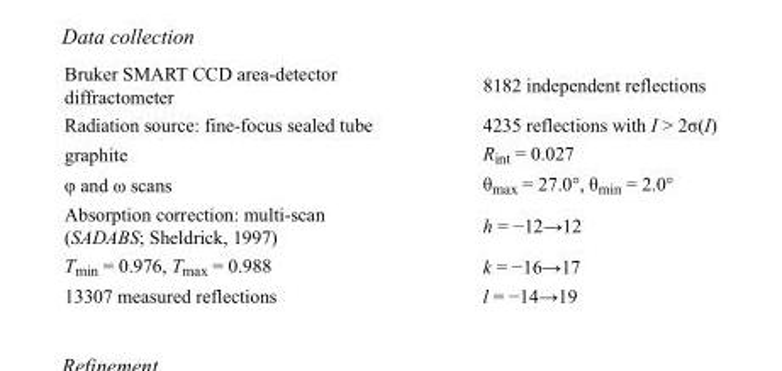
<table><tbody><tr><td>Bruker SMART CCD area-detector diffractometer</td><td>8182 independent reflections</td></tr><tr><td>Radiation source: fine-focus sealed tube</td><td>4235 reflections with I &gt; 2σ(I)</td></tr><tr><td>graphite</td><td>R<sub>int</sub> = 0.027</td></tr><tr><td>φ and ω scans</td><td>θ<sub>max</sub> = 27.0°, θ<sub>min</sub> = 2.0°</td></tr><tr><td>Absorption correction: multi-scan (SADABS; Sheldrick, 1997)</td><td>h = −12→12</td></tr><tr><td>T<sub>min</sub> = 0.976, T<sub>max</sub> = 0.988</td><td>k = −16→17</td></tr><tr><td>13307 measured reflections</td><td>l = −14→19</td></tr></tbody></table>